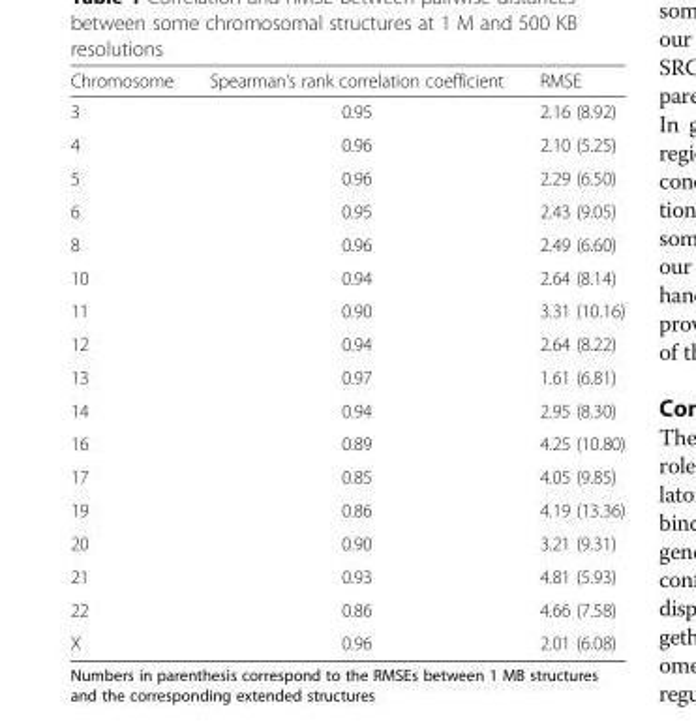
<table><thead><tr><td>Chromosome</td><td>Spearman’s rank correlation coefficient</td><td>RMSE</td></tr></thead><tbody><tr><td>3</td><td>0.95</td><td>2.16 (8.92)</td></tr><tr><td>4</td><td>0.96</td><td>2.10 (5.25)</td></tr><tr><td>5</td><td>0.96</td><td>2.29 (6.50)</td></tr><tr><td>6</td><td>0.95</td><td>2.43 (9.05)</td></tr><tr><td>8</td><td>0.96</td><td>2.49 (6.60)</td></tr><tr><td>10</td><td>0.94</td><td>2.64 (8.14)</td></tr><tr><td>11</td><td>0.90</td><td>3.31 (10.16)</td></tr><tr><td>12</td><td>0.94</td><td>2.64 (8.22)</td></tr><tr><td>13</td><td>0.97</td><td>1.61 (6.81)</td></tr><tr><td>14</td><td>0.94</td><td>2.95 (8.30)</td></tr><tr><td>16</td><td>0.89</td><td>4.25 (10.80)</td></tr><tr><td>17</td><td>0.85</td><td>4.05 (9.85)</td></tr><tr><td>19</td><td>0.86</td><td>4.19 (13.36)</td></tr><tr><td>20</td><td>0.90</td><td>3.21 (9.31)</td></tr><tr><td>21</td><td>0.93</td><td>4.81 (5.93)</td></tr><tr><td>22</td><td>0.86</td><td>4.66 (7.58)</td></tr><tr><td>X</td><td>0.96</td><td>2.01 (6.08)</td></tr></tbody></table>